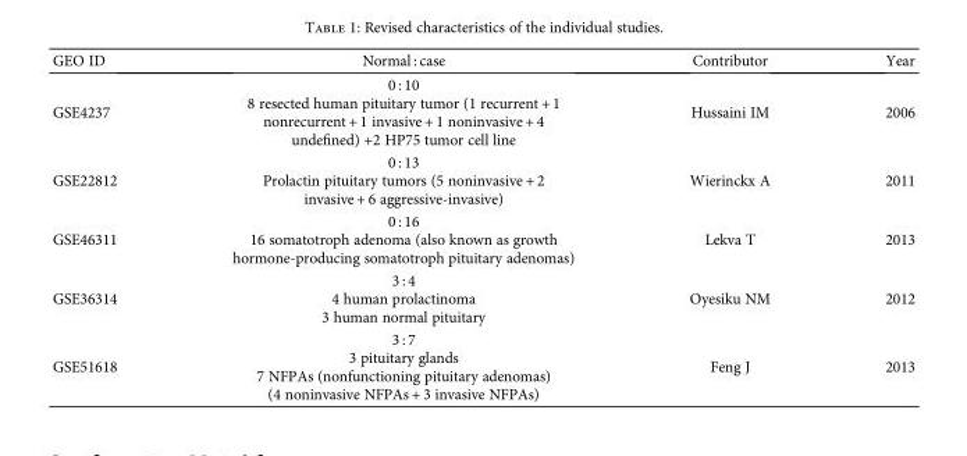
<table><thead><tr><td>GEO ID</td><td>Normal : case</td><td>Contributor</td><td>Year</td></tr></thead><tbody><tr><td>GSE4237</td><td>0 : 10 8 resected human pituitary tumor (1 recurrent + 1 nonrecurrent + 1 invasive + 1 noninvasive + 4 undefined) +2 HP75 tumor cell line</td><td>Hussaini IM</td><td>2006</td></tr><tr><td>GSE22812</td><td>0 : 13 Prolactin pituitary tumors (5 noninvasive + 2 invasive + 6 aggressive-invasive)</td><td>Wierinckx A</td><td>2011</td></tr><tr><td>GSE46311</td><td>0 : 16 16 somatotroph adenoma (also known as growth hormone-producing somatotroph pituitary adenomas)</td><td>Lekva T</td><td>2013</td></tr><tr><td>GSE36314</td><td>3 : 4 4 human prolactinoma 3 human normal pituitary</td><td>Oyesiku NM</td><td>2012</td></tr><tr><td>GSE51618</td><td>3 : 7 3 pituitary glands 7 NFPAs (nonfunctioning pituitary adenomas) (4 noninvasive NFPAs + 3 invasive NFPAs)</td><td>Feng J</td><td>2013</td></tr></tbody></table>